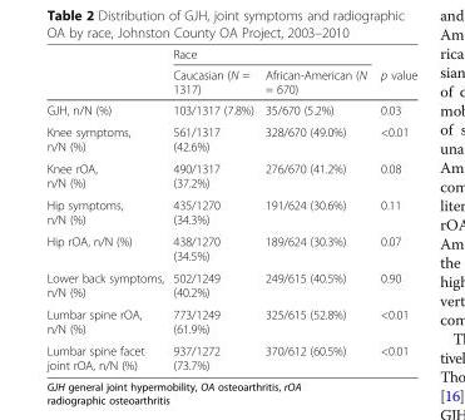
<table><thead><tr><td rowspan="2"></td><td colspan="2">Race</td><td rowspan="2">p value</td></tr><tr><td>Caucasian (N = 1317)</td><td>African-American (N = 670)</td></tr></thead><tbody><tr><td>GJH, n/N (%)</td><td>103/1317 (7.8%)</td><td>35/670 (5.2%)</td><td>0.03</td></tr><tr><td>Knee symptoms, n/N (%)</td><td>561/1317 (42.6%)</td><td>328/670 (49.0%)</td><td>&lt;0.01</td></tr><tr><td>Knee rOA, n/N (%)</td><td>490/1317 (37.2%)</td><td>276/670 (41.2%)</td><td>0.08</td></tr><tr><td>Hip symptoms, n/N (%)</td><td>435/1270 (34.3%)</td><td>191/624 (30.6%)</td><td>0.11</td></tr><tr><td>Hip rOA, n/N (%)</td><td>438/1270 (34.5%)</td><td>189/624 (30.3%)</td><td>0.07</td></tr><tr><td>Lower back symptoms, n/N (%)</td><td>502/1249 (40.2%)</td><td>249/615 (40.5%)</td><td>0.90</td></tr><tr><td>Lumbar spine rOA, n/N (%)</td><td>773/1249 (61.9%)</td><td>325/615 (52.8%)</td><td>&lt;0.01</td></tr><tr><td>Lumbar spine facet joint rOA, n/N (%)</td><td>937/1272 (73.7%)</td><td>370/612 (60.5%)</td><td>&lt;0.01</td></tr></tbody></table>